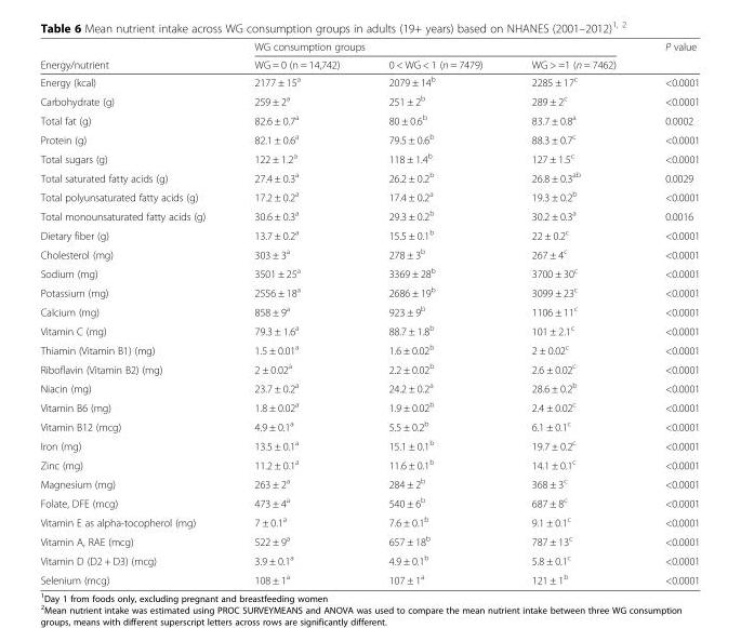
<table><thead><tr><td rowspan="2">Energy/nutrient</td><td colspan="3">WG consumption groups</td><td rowspan="2">P value</td></tr><tr><td>WG = 0 (n = 14,742)</td><td>0 &lt; WG &lt; 1 (n = 7479)</td><td>WG &gt; =1 (n = 7462)</td></tr></thead><tbody><tr><td>Energy (kcal)</td><td>2177 ± 15<sup>a</sup></td><td>2079 ± 14<sup>b</sup></td><td>2285 ± 17<sup>c</sup></td><td>&lt;0.0001</td></tr><tr><td>Carbohydrate (g)</td><td>259 ± 2<sup>a</sup></td><td>251 ± 2<sup>b</sup></td><td>289 ± 2<sup>c</sup></td><td>&lt;0.0001</td></tr><tr><td>Total fat (g)</td><td>82.6 ± 0.7<sup>a</sup></td><td>80 ± 0.6<sup>b</sup></td><td>83.7 ± 0.8<sup>a</sup></td><td>0.0002</td></tr><tr><td>Protein (g)</td><td>82.1 ± 0.6<sup>a</sup></td><td>79.5 ± 0.6<sup>b</sup></td><td>88.3 ± 0.7<sup>c</sup></td><td>&lt;0.0001</td></tr><tr><td>Total sugars (g)</td><td>122 ± 1.2<sup>a</sup></td><td>118 ± 1.4<sup>b</sup></td><td>127 ± 1.5<sup>c</sup></td><td>&lt;0.0001</td></tr><tr><td>Total saturated fatty acids (g)</td><td>27.4 ± 0.3<sup>a</sup></td><td>26.2 ± 0.2<sup>b</sup></td><td>26.8 ± 0.3<sup>ab</sup></td><td>0.0029</td></tr><tr><td>Total polyunsaturated fatty acids (g)</td><td>17.2 ± 0.2<sup>a</sup></td><td>17.4 ± 0.2<sup>a</sup></td><td>19.3 ± 0.2<sup>b</sup></td><td>&lt;0.0001</td></tr><tr><td>Total monounsaturated fatty acids (g)</td><td>30.6 ± 0.3<sup>a</sup></td><td>29.3 ± 0.2<sup>b</sup></td><td>30.2 ± 0.3<sup>a</sup></td><td>0.0016</td></tr><tr><td>Dietary fiber (g)</td><td>13.7 ± 0.2<sup>a</sup></td><td>15.5 ± 0.1<sup>b</sup></td><td>22 ± 0.2<sup>c</sup></td><td>&lt;0.0001</td></tr><tr><td>Cholesterol (mg)</td><td>303 ± 3<sup>a</sup></td><td>278 ± 3<sup>b</sup></td><td>267 ± 4<sup>c</sup></td><td>&lt;0.0001</td></tr><tr><td>Sodium (mg)</td><td>3501 ± 25<sup>a</sup></td><td>3369 ± 28<sup>b</sup></td><td>3700 ± 30<sup>c</sup></td><td>&lt;0.0001</td></tr><tr><td>Potassium (mg)</td><td>2556 ± 18<sup>a</sup></td><td>2686 ± 19<sup>b</sup></td><td>3099 ± 23<sup>c</sup></td><td>&lt;0.0001</td></tr><tr><td>Calcium (mg)</td><td>858 ± 9<sup>a</sup></td><td>923 ± 9<sup>b</sup></td><td>1106 ± 11<sup>c</sup></td><td>&lt;0.0001</td></tr><tr><td>Vitamin C (mg)</td><td>79.3 ± 1.6<sup>a</sup></td><td>88.7 ± 1.8<sup>b</sup></td><td>101 ± 2.1<sup>c</sup></td><td>&lt;0.0001</td></tr><tr><td>Thiamin (Vitamin B1) (mg)</td><td>1.5 ± 0.01<sup>a</sup></td><td>1.6 ± 0.02<sup>b</sup></td><td>2 ± 0.02<sup>c</sup></td><td>&lt;0.0001</td></tr><tr><td>Riboflavin (Vitamin B2) (mg)</td><td>2 ± 0.02<sup>a</sup></td><td>2.2 ± 0.02<sup>b</sup></td><td>2.6 ± 0.02<sup>c</sup></td><td>&lt;0.0001</td></tr><tr><td>Niacin (mg)</td><td>23.7 ± 0.2<sup>a</sup></td><td>24.2 ± 0.2<sup>a</sup></td><td>28.6 ± 0.2<sup>b</sup></td><td>&lt;0.0001</td></tr><tr><td>Vitamin B6 (mg)</td><td>1.8 ± 0.02<sup>a</sup></td><td>1.9 ± 0.02<sup>b</sup></td><td>2.4 ± 0.02<sup>c</sup></td><td>&lt;0.0001</td></tr><tr><td>Vitamin B12 (mcg)</td><td>4.9 ± 0.1<sup>a</sup></td><td>5.5 ± 0.2<sup>b</sup></td><td>6.1 ± 0.1<sup>c</sup></td><td>&lt;0.0001</td></tr><tr><td>Iron (mg)</td><td>13.5 ± 0.1<sup>a</sup></td><td>15.1 ± 0.1<sup>b</sup></td><td>19.7 ± 0.2<sup>c</sup></td><td>&lt;0.0001</td></tr><tr><td>Zinc (mg)</td><td>11.2 ± 0.1<sup>a</sup></td><td>11.6 ± 0.1<sup>b</sup></td><td>14.1 ± 0.1<sup>c</sup></td><td>&lt;0.0001</td></tr><tr><td>Magnesium (mg)</td><td>263 ± 2<sup>a</sup></td><td>284 ± 2<sup>b</sup></td><td>368 ± 3<sup>c</sup></td><td>&lt;0.0001</td></tr><tr><td>Folate, DFE (mcg)</td><td>473 ± 4<sup>a</sup></td><td>540 ± 6<sup>b</sup></td><td>687 ± 8<sup>c</sup></td><td>&lt;0.0001</td></tr><tr><td>Vitamin E as alpha-tocopherol (mg)</td><td>7 ± 0.1<sup>a</sup></td><td>7.6 ± 0.1<sup>b</sup></td><td>9.1 ± 0.1<sup>c</sup></td><td>&lt;0.0001</td></tr><tr><td>Vitamin A, RAE (mcg)</td><td>522 ± 9<sup>a</sup></td><td>657 ± 18<sup>b</sup></td><td>787 ± 13<sup>c</sup></td><td>&lt;0.0001</td></tr><tr><td>Vitamin D (D2 + D3) (mcg)</td><td>3.9 ± 0.1<sup>a</sup></td><td>4.9 ± 0.1<sup>b</sup></td><td>5.8 ± 0.1<sup>c</sup></td><td>&lt;0.0001</td></tr><tr><td>Selenium (mcg)</td><td>108 ± 1<sup>a</sup></td><td>107 ± 1<sup>a</sup></td><td>121 ± 1<sup>b</sup></td><td>&lt;0.0001</td></tr></tbody></table>